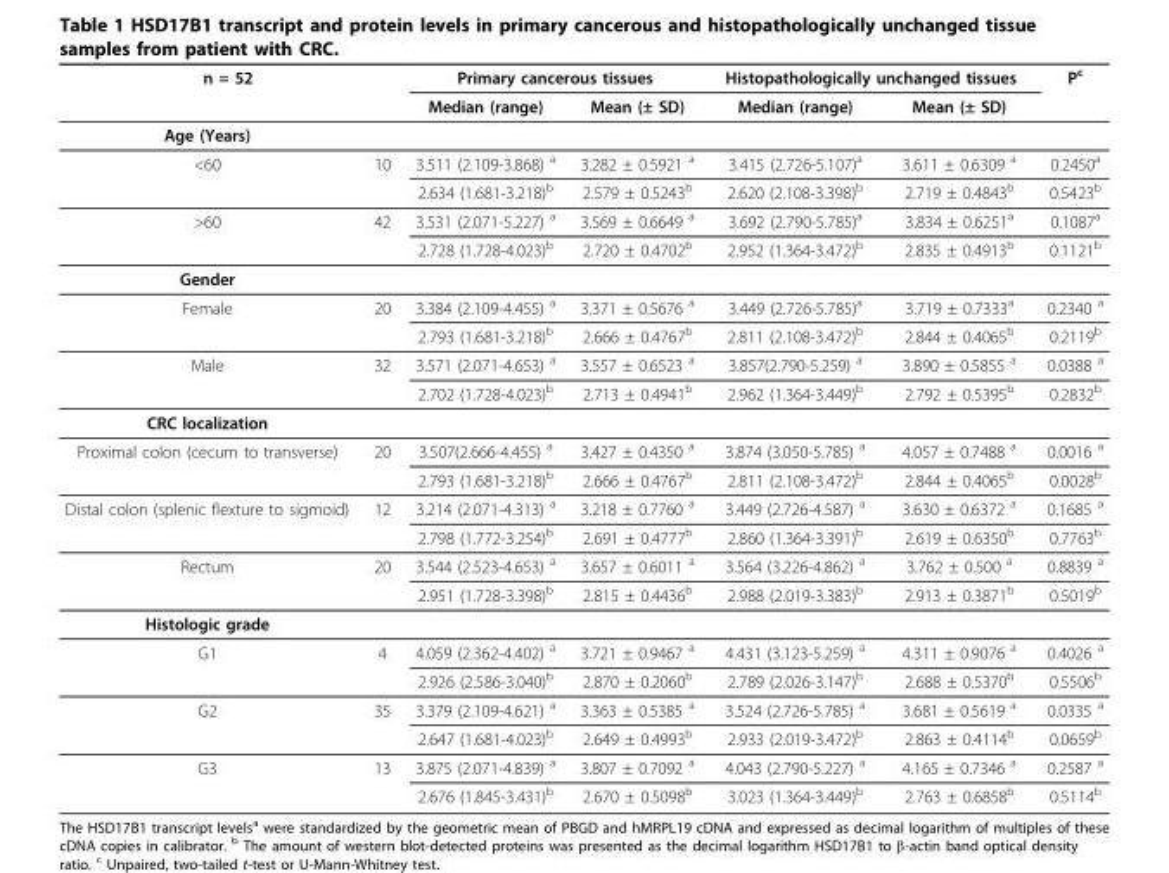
<table><thead><tr><td colspan="2">n = 52</td><td colspan="2">Primary cancerous tissues</td><td colspan="2">Histopathologically unchanged tissues</td><td rowspan="2">Pc</td></tr><tr><td></td><td></td><td>Median (range)</td><td>Mean (± SD)</td><td>Median (range)</td><td>Mean (± SD)</td></tr></thead><tbody><tr><td colspan="7">Age (Years)</td></tr><tr><td rowspan="2">&lt;60</td><td>10</td><td>3.511 (2.109-3.868) a</td><td>3.282 ± 0.5921 a</td><td>3.415 (2.726-5.107)a</td><td>3.611 ± 0.6309 a</td><td>0.2450a</td></tr><tr><td></td><td>2.634 (1.681-3.218)b</td><td>2.579 ± 0.5243b</td><td>2.620 (2.108-3.398)b</td><td>2.719 ± 0.4843b</td><td>0.5423b</td></tr><tr><td rowspan="2">&gt;60</td><td>42</td><td>3.531 (2.071-5.227) a</td><td>3.569 ± 0.6649 a</td><td>3.692 (2.790-5.785)a</td><td>3.834 ± 0.6251a</td><td>0.1087a</td></tr><tr><td></td><td>2.728 (1.728-4.023)b</td><td>2.720 ± 0.4702b</td><td>2.952 (1.364-3.472)b</td><td>2.835 ± 0.4913b</td><td>0.1121b</td></tr><tr><td colspan="7">Gender</td></tr><tr><td rowspan="2">Female</td><td>20</td><td>3.384 (2.109-4.455) a</td><td>3.371 ± 0.5676 a</td><td>3.449 (2.726-5.785)a</td><td>3.719 ± 0.7333a</td><td>0.2340 a</td></tr><tr><td></td><td>2.793 (1.681-3.218)b</td><td>2.666 ± 0.4767b</td><td>2.811 (2.108-3.472)b</td><td>2.844 ± 0.4065b</td><td>0.2119b</td></tr><tr><td rowspan="2">Male</td><td>32</td><td>3.571 (2.071-4.653) a</td><td>3.557 ± 0.6523 a</td><td>3.857(2.790-5.259) a</td><td>3.890 ± 0.5855 a</td><td>0.0388 a</td></tr><tr><td></td><td>2.702 (1.728-4.023)b</td><td>2.713 ± 0.4941b</td><td>2.962 (1.364-3.449)b</td><td>2.792 ± 0.5395b</td><td>0.2832b</td></tr><tr><td colspan="7">CRC localization</td></tr><tr><td rowspan="2">Proximal colon (cecum to transverse)</td><td>20</td><td>3.507(2.666-4.455) a</td><td>3.427 ± 0.4350 a</td><td>3.874 (3.050-5.785) a</td><td>4.057 ± 0.7488 a</td><td>0.0016 a</td></tr><tr><td></td><td>2.793 (1.681-3.218)b</td><td>2.666 ± 0.4767b</td><td>2.811 (2.108-3.472)b</td><td>2.844 ± 0.4065b</td><td>0.0028b</td></tr><tr><td rowspan="2">Distal colon (splenic flexture to sigmoid)</td><td>12</td><td>3.214 (2.071-4.313) a</td><td>3.218 ± 0.7760 a</td><td>3.449 (2.726-4.587) a</td><td>3.630 ± 0.6372 a</td><td>0.1685 a</td></tr><tr><td></td><td>2.798 (1.772-3.254)b</td><td>2.691 ± 0.4777b</td><td>2.860 (1.364-3.391)b</td><td>2.619 ± 0.6350b</td><td>0.7763b</td></tr><tr><td rowspan="2">Rectum</td><td>20</td><td>3.544 (2.523-4.653) a</td><td>3.657 ± 0.6011 a</td><td>3.564 (3.226-4.862) a</td><td>3.762 ± 0.500 a</td><td>0.8839 a</td></tr><tr><td></td><td>2.951 (1.728-3.398)b</td><td>2.815 ± 0.4436b</td><td>2.988 (2.019-3.383)b</td><td>2.913 ± 0.3871b</td><td>0.5019b</td></tr><tr><td colspan="7">Histologic grade</td></tr><tr><td rowspan="2">G1</td><td>4</td><td>4.059 (2.362-4.402) a</td><td>3.721 ± 0.9467 a</td><td>4.431 (3.123-5.259) a</td><td>4.311 ± 0.9076 a</td><td>0.4026 a</td></tr><tr><td></td><td>2.926 (2.586-3.040)b</td><td>2.870 ± 0.2060b</td><td>2.789 (2.026-3.147)b</td><td>2.688 ± 0.5370b</td><td>0.5506b</td></tr><tr><td rowspan="2">G2</td><td>35</td><td>3.379 (2.109-4.621) a</td><td>3.363 ± 0.5385 a</td><td>3.524 (2.726-5.785) a</td><td>3.681 ± 0.5619 a</td><td>0.0335 a</td></tr><tr><td></td><td>2.647 (1.681-4.023)b</td><td>2.649 ± 0.4993b</td><td>2.933 (2.019-3.472)b</td><td>2.863 ± 0.4114b</td><td>0.0659b</td></tr><tr><td rowspan="2">G3</td><td>13</td><td>3.875 (2.071-4.839) a</td><td>3.807 ± 0.7092 a</td><td>4.043 (2.790-5.227) a</td><td>4.165 ± 0.7346 a</td><td>0.2587 a</td></tr><tr><td></td><td>2.676 (1.845-3.431)b</td><td>2.670 ± 0.5098b</td><td>3.023 (1.364-3.449)b</td><td>2.763 ± 0.6858b</td><td>0.5114b</td></tr></tbody></table>